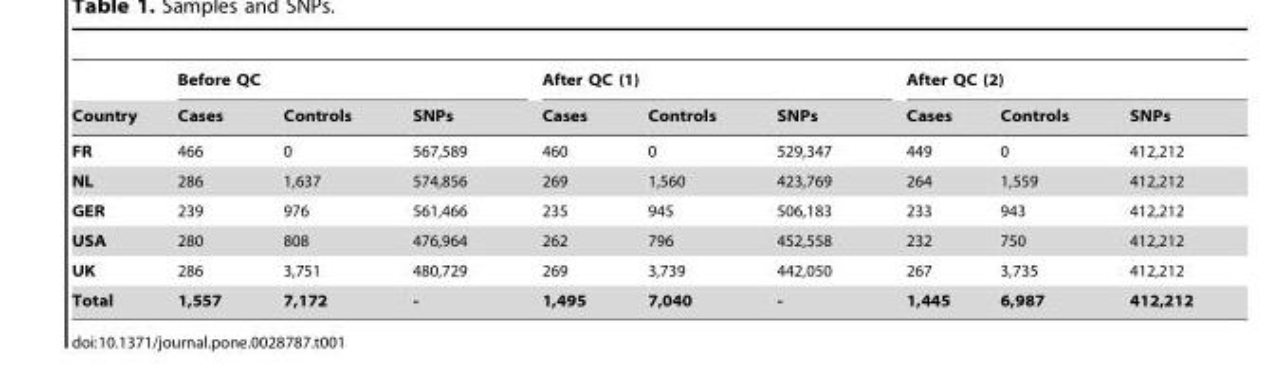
<table><thead><tr><td rowspan="2">Country</td><td colspan="3">Before QC</td><td colspan="3">After QC (1)</td><td colspan="3">After QC (2)</td></tr><tr><td>Cases</td><td>Controls</td><td>SNPs</td><td>Cases</td><td>Controls</td><td>SNPs</td><td>Cases</td><td>Controls</td><td>SNPs</td></tr></thead><tbody><tr><td>FR</td><td>466</td><td>0</td><td>567,589</td><td>460</td><td>0</td><td>529,347</td><td>449</td><td>0</td><td>412,212</td></tr><tr><td>NL</td><td>286</td><td>1,637</td><td>574,856</td><td>269</td><td>1,560</td><td>423,769</td><td>264</td><td>1,559</td><td>412,212</td></tr><tr><td>GER</td><td>239</td><td>976</td><td>561,466</td><td>235</td><td>945</td><td>506,183</td><td>233</td><td>943</td><td>412,212</td></tr><tr><td>USA</td><td>280</td><td>808</td><td>476,964</td><td>262</td><td>796</td><td>452,558</td><td>232</td><td>750</td><td>412,212</td></tr><tr><td>UK</td><td>286</td><td>3,751</td><td>480,729</td><td>269</td><td>3,739</td><td>442,050</td><td>267</td><td>3,735</td><td>412,212</td></tr><tr><td>Total</td><td>1,557</td><td>7,172</td><td>-</td><td>1,495</td><td>7,040</td><td>-</td><td>1,445</td><td>6,987</td><td>412,212</td></tr></tbody></table>